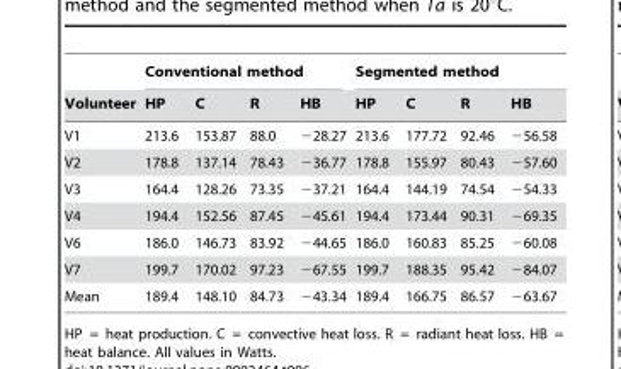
<table><thead><tr><td rowspan="2">Volunteer</td><td colspan="4">Conventional method</td><td colspan="4">Segmented method</td></tr><tr><td>HP</td><td>C</td><td>R</td><td>HB</td><td>HP</td><td>C</td><td>R</td><td>HB</td></tr></thead><tbody><tr><td>V1</td><td>213.6</td><td>153.87</td><td>88.0</td><td>−28.27</td><td>213.6</td><td>177.72</td><td>92.46</td><td>−56.58</td></tr><tr><td>V2</td><td>178.8</td><td>137.14</td><td>78.43</td><td>−36.77</td><td>178.8</td><td>155.97</td><td>80.43</td><td>−57.60</td></tr><tr><td>V3</td><td>164.4</td><td>128.26</td><td>73.35</td><td>−37.21</td><td>164.4</td><td>144.19</td><td>74.54</td><td>−54.33</td></tr><tr><td>V4</td><td>194.4</td><td>152.56</td><td>87.45</td><td>−45.61</td><td>194.4</td><td>173.44</td><td>90.31</td><td>−69.35</td></tr><tr><td>V6</td><td>186.0</td><td>146.73</td><td>83.92</td><td>−44.65</td><td>186.0</td><td>160.83</td><td>85.25</td><td>−60.08</td></tr><tr><td>V7</td><td>199.7</td><td>170.02</td><td>97.23</td><td>−67.55</td><td>199.7</td><td>188.35</td><td>95.42</td><td>−84.07</td></tr><tr><td>Mean</td><td>189.4</td><td>148.10</td><td>84.73</td><td>−43.34</td><td>189.4</td><td>166.75</td><td>86.57</td><td>−63.67</td></tr></tbody></table>